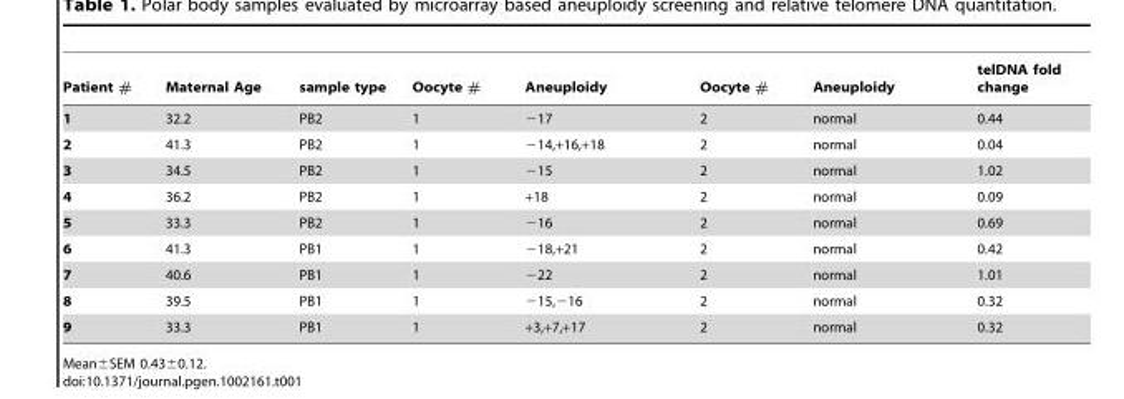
<table><thead><tr><td>Patient #</td><td>Maternal Age</td><td>sample type</td><td>Oocyte #</td><td>Aneuploidy</td><td>Oocyte #</td><td>Aneuploidy</td><td>telDNA fold change</td></tr></thead><tbody><tr><td>1</td><td>32.2</td><td>PB2</td><td>1</td><td>−17</td><td>2</td><td>normal</td><td>0.44</td></tr><tr><td>2</td><td>41.3</td><td>PB2</td><td>1</td><td>−14,+16,+18</td><td>2</td><td>normal</td><td>0.04</td></tr><tr><td>3</td><td>34.5</td><td>PB2</td><td>1</td><td>−15</td><td>2</td><td>normal</td><td>1.02</td></tr><tr><td>4</td><td>36.2</td><td>PB2</td><td>1</td><td>+18</td><td>2</td><td>normal</td><td>0.09</td></tr><tr><td>5</td><td>33.3</td><td>PB2</td><td>1</td><td>−16</td><td>2</td><td>normal</td><td>0.69</td></tr><tr><td>6</td><td>41.3</td><td>PB1</td><td>1</td><td>−18,+21</td><td>2</td><td>normal</td><td>0.42</td></tr><tr><td>7</td><td>40.6</td><td>PB1</td><td>1</td><td>−22</td><td>2</td><td>normal</td><td>1.01</td></tr><tr><td>8</td><td>39.5</td><td>PB1</td><td>1</td><td>−15,−16</td><td>2</td><td>normal</td><td>0.32</td></tr><tr><td>9</td><td>33.3</td><td>PB1</td><td>1</td><td>+3,+7,+17</td><td>2</td><td>normal</td><td>0.32</td></tr></tbody></table>